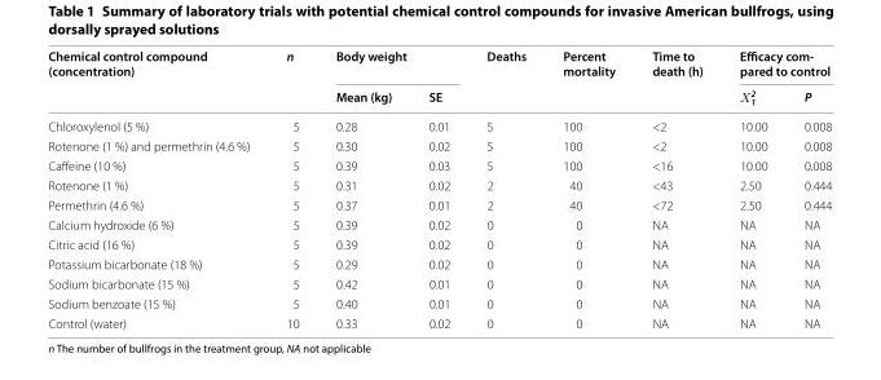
<table><thead><tr><td rowspan="2">Chemical control compound (concentration)</td><td rowspan="2">n</td><td colspan="2">Body weight</td><td rowspan="2">Deaths</td><td rowspan="2">Percent mortality</td><td rowspan="2">Time to death (h)</td><td colspan="2">Efficacy com- pared to control</td></tr><tr><td>Mean (kg)</td><td>SE</td><td>Χ<sub>1</sub> <sup>2</sup></td><td>P</td></tr></thead><tbody><tr><td>Chloroxylenol (5 %)</td><td>5</td><td>0.28</td><td>0.01</td><td>5</td><td>100</td><td>&lt;2</td><td>10.00</td><td>0.008</td></tr><tr><td>Rotenone (1 %) and permethrin (4.6 %)</td><td>5</td><td>0.30</td><td>0.02</td><td>5</td><td>100</td><td>&lt;2</td><td>10.00</td><td>0.008</td></tr><tr><td>Caffeine (10 %)</td><td>5</td><td>0.39</td><td>0.03</td><td>5</td><td>100</td><td>&lt;16</td><td>10.00</td><td>0.008</td></tr><tr><td>Rotenone (1 %)</td><td>5</td><td>0.31</td><td>0.02</td><td>2</td><td>40</td><td>&lt;43</td><td>2.50</td><td>0.444</td></tr><tr><td>Permethrin (4.6 %)</td><td>5</td><td>0.37</td><td>0.01</td><td>2</td><td>40</td><td>&lt;72</td><td>2.50</td><td>0.444</td></tr><tr><td>Calcium hydroxide (6 %)</td><td>5</td><td>0.39</td><td>0.02</td><td>0</td><td>0</td><td>NA</td><td>NA</td><td>NA</td></tr><tr><td>Citric acid (16 %)</td><td>5</td><td>0.39</td><td>0.02</td><td>0</td><td>0</td><td>NA</td><td>NA</td><td>NA</td></tr><tr><td>Potassium bicarbonate (18 %)</td><td>5</td><td>0.29</td><td>0.02</td><td>0</td><td>0</td><td>NA</td><td>NA</td><td>NA</td></tr><tr><td>Sodium bicarbonate (15 %)</td><td>5</td><td>0.42</td><td>0.01</td><td>0</td><td>0</td><td>NA</td><td>NA</td><td>NA</td></tr><tr><td>Sodium benzoate (15 %)</td><td>5</td><td>0.40</td><td>0.01</td><td>0</td><td>0</td><td>NA</td><td>NA</td><td>NA</td></tr><tr><td>Control (water)</td><td>10</td><td>0.33</td><td>0.02</td><td>0</td><td>0</td><td>NA</td><td>NA</td><td>NA</td></tr></tbody></table>